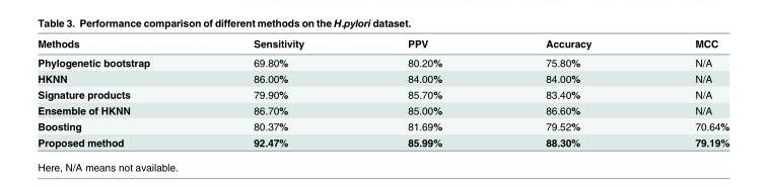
<table><thead><tr><td>Methods</td><td>Sensitivity</td><td>PPV</td><td>Accuracy</td><td>MCC</td></tr></thead><tbody><tr><td>Phylogenetic bootstrap</td><td>69.80%</td><td>80.20%</td><td>75.80%</td><td>N/A</td></tr><tr><td>HKNN</td><td>86.00%</td><td>84.00%</td><td>84.00%</td><td>N/A</td></tr><tr><td>Signature products</td><td>79.90%</td><td>85.70%</td><td>83.40%</td><td>N/A</td></tr><tr><td>Ensemble of HKNN</td><td>86.70%</td><td>85.00%</td><td>86.60%</td><td>N/A</td></tr><tr><td>Boosting</td><td>80.37%</td><td>81.69%</td><td>79.52%</td><td>70.64%</td></tr><tr><td>Proposed method</td><td>92.47%</td><td>85.99%</td><td>88.30%</td><td>79.19%</td></tr></tbody></table>